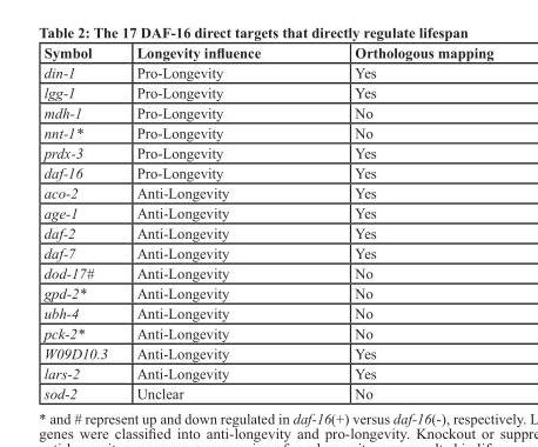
<table><thead><tr><td>Symbol</td><td>Longevity influence</td><td>Orthologous mapping</td></tr></thead><tbody><tr><td>din-1</td><td>Pro-Longevity</td><td>Yes</td></tr><tr><td>lgg-1</td><td>Pro-Longevity</td><td>Yes</td></tr><tr><td>mdh-1</td><td>Pro-Longevity</td><td>No</td></tr><tr><td>nnt-1*</td><td>Pro-Longevity</td><td>No</td></tr><tr><td>prdx-3</td><td>Pro-Longevity</td><td>Yes</td></tr><tr><td>daf-16</td><td>Pro-Longevity</td><td>Yes</td></tr><tr><td>aco-2</td><td>Anti-Longevity</td><td>Yes</td></tr><tr><td>age-1</td><td>Anti-Longevity</td><td>Yes</td></tr><tr><td>daf-2</td><td>Anti-Longevity</td><td>Yes</td></tr><tr><td>daf-7</td><td>Anti-Longevity</td><td>Yes</td></tr><tr><td>dod-17#</td><td>Anti-Longevity</td><td>No</td></tr><tr><td>gpd-2*</td><td>Anti-Longevity</td><td>No</td></tr><tr><td>ubh-4</td><td>Anti-Longevity</td><td>No</td></tr><tr><td>pck-2*</td><td>Anti-Longevity</td><td>No</td></tr><tr><td>W09D10.3</td><td>Anti-Longevity</td><td>Yes</td></tr><tr><td>lars-2</td><td>Anti-Longevity</td><td>Yes</td></tr><tr><td>sod-2</td><td>Unclear</td><td>No</td></tr></tbody></table>